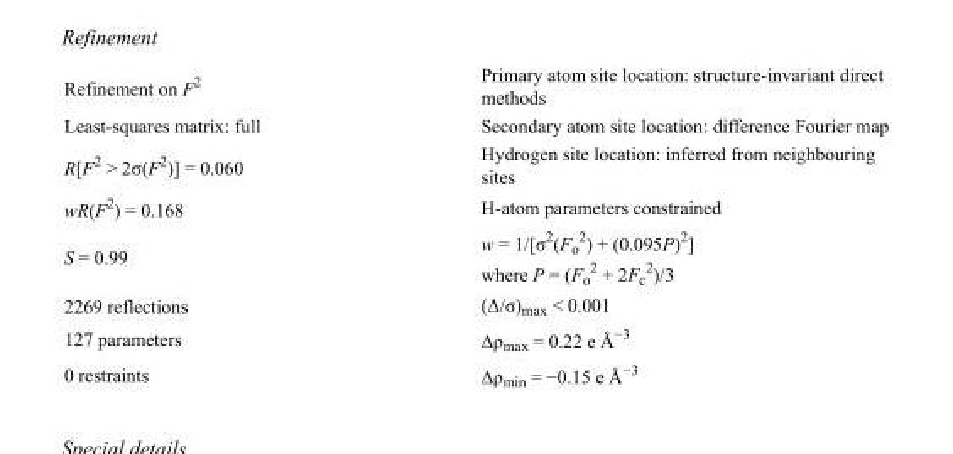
<table><tbody><tr><td>Refinement on F<sup>2</sup></td><td>Primary atom site location: structure-invariant direct methods</td></tr><tr><td>Least-squares matrix: full</td><td>Secondary atom site location: difference Fourier map</td></tr><tr><td>R[F<sup>2</sup> &gt; 2σ(F<sup>2</sup>)] = 0.060</td><td>Hydrogen site location: inferred from neighbouring sites</td></tr><tr><td>wR(F<sup>2</sup>) = 0.168</td><td>H-atom parameters constrained</td></tr><tr><td>S = 0.99</td><td>w = 1/[σ<sup>2</sup>(F<sub>o</sub> <sup>2</sup>) + (0.095P)<sup>2</sup>] where P = (F<sub>o</sub> <sup>2</sup> + 2F<sub>c</sub> <sup>2</sup>)/3</td></tr><tr><td>2269 reflections</td><td>(Δ/σ)<sub>max</sub> &lt; 0.001</td></tr><tr><td>127 parameters</td><td>Δρ<sub>max</sub> = 0.22 e Å<sup>−3</sup></td></tr><tr><td>0 restraints</td><td>Δρ<sub>min</sub> = −0.15 e Å<sup>−3</sup></td></tr></tbody></table>